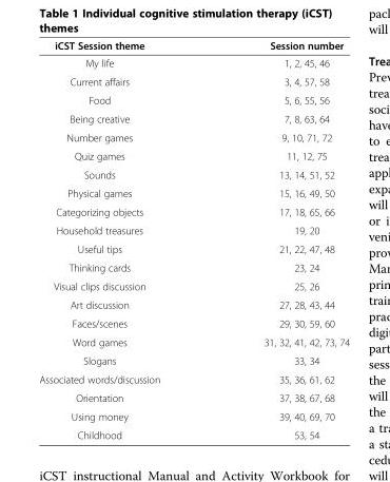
<table><thead><tr><td>iCST Session theme</td><td>Session number</td></tr></thead><tbody><tr><td>My life</td><td>1, 2, 45, 46</td></tr><tr><td>Current affairs</td><td>3, 4, 57, 58</td></tr><tr><td>Food</td><td>5, 6, 55, 56</td></tr><tr><td>Being creative</td><td>7, 8, 63, 64</td></tr><tr><td>Number games</td><td>9, 10, 71, 72</td></tr><tr><td>Quiz games</td><td>11, 12, 75</td></tr><tr><td>Sounds</td><td>13, 14, 51, 52</td></tr><tr><td>Physical games</td><td>15, 16, 49, 50</td></tr><tr><td>Categorizing objects</td><td>17, 18, 65, 66</td></tr><tr><td>Household treasures</td><td>19, 20</td></tr><tr><td>Useful tips</td><td>21, 22, 47, 48</td></tr><tr><td>Thinking cards</td><td>23, 24</td></tr><tr><td>Visual clips discussion</td><td>25, 26</td></tr><tr><td>Art discussion</td><td>27, 28, 43, 44</td></tr><tr><td>Faces/scenes</td><td>29, 30, 59, 60</td></tr><tr><td>Word games</td><td>31, 32, 41, 42, 73, 74</td></tr><tr><td>Slogans</td><td>33, 34</td></tr><tr><td>Associated words/discussion</td><td>35, 36, 61, 62</td></tr><tr><td>Orientation</td><td>37, 38, 67, 68</td></tr><tr><td>Using money</td><td>39, 40, 69, 70</td></tr><tr><td>Childhood</td><td>53, 54</td></tr></tbody></table>